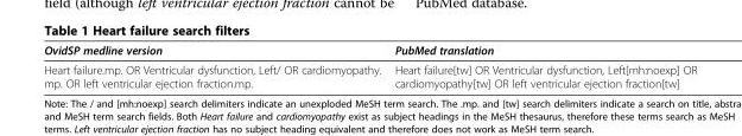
<table><thead><tr><td>OvidSP medline version</td><td>PubMed translation</td></tr></thead><tbody><tr><td>Heart failure.mp. OR Ventricular dysfunction, Left/ OR cardiomyopathy. mp. OR left ventricular ejection fraction.mp.</td><td>Heart failure[tw] OR Ventricular dysfunction, Left[mh:noexp] OR cardiomyopathy[tw] OR left ventricular ejection fraction[tw]</td></tr></tbody></table>